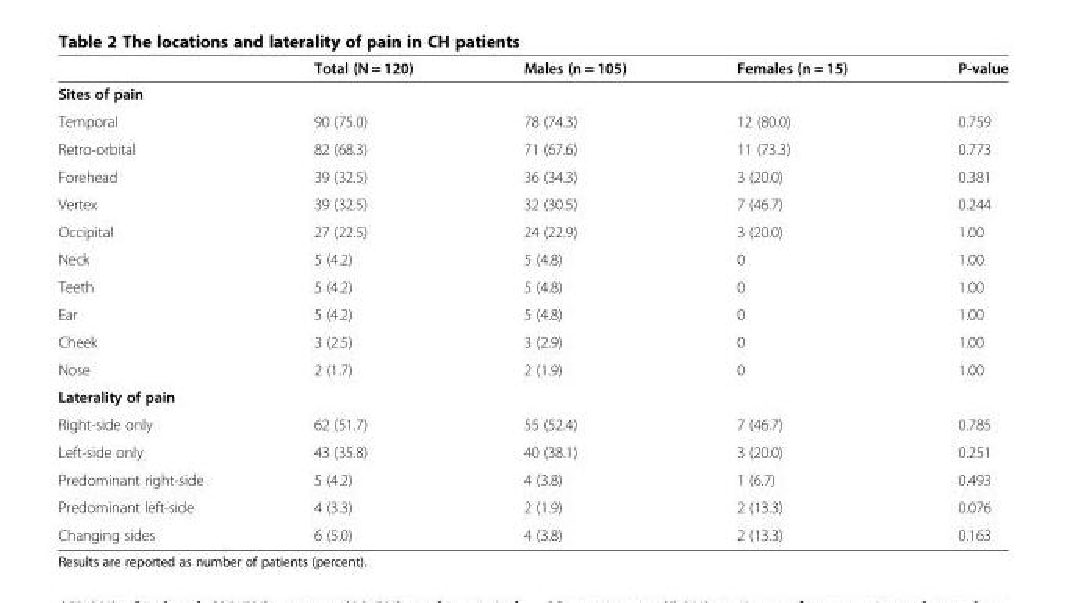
<table><thead><tr><td></td><td>Total (N = 120)</td><td>Males (n = 105)</td><td>Females (n = 15)</td><td>P-value</td></tr></thead><tbody><tr><td colspan="5">Sites of pain</td></tr><tr><td>Temporal</td><td>90 (75.0)</td><td>78 (74.3)</td><td>12 (80.0)</td><td>0.759</td></tr><tr><td>Retro-orbital</td><td>82 (68.3)</td><td>71 (67.6)</td><td>11 (73.3)</td><td>0.773</td></tr><tr><td>Forehead</td><td>39 (32.5)</td><td>36 (34.3)</td><td>3 (20.0)</td><td>0.381</td></tr><tr><td>Vertex</td><td>39 (32.5)</td><td>32 (30.5)</td><td>7 (46.7)</td><td>0.244</td></tr><tr><td>Occipital</td><td>27 (22.5)</td><td>24 (22.9)</td><td>3 (20.0)</td><td>1.00</td></tr><tr><td>Neck</td><td>5 (4.2)</td><td>5 (4.8)</td><td>0</td><td>1.00</td></tr><tr><td>Teeth</td><td>5 (4.2)</td><td>5 (4.8)</td><td>0</td><td>1.00</td></tr><tr><td>Ear</td><td>5 (4.2)</td><td>5 (4.8)</td><td>0</td><td>1.00</td></tr><tr><td>Cheek</td><td>3 (2.5)</td><td>3 (2.9)</td><td>0</td><td>1.00</td></tr><tr><td>Nose</td><td>2 (1.7)</td><td>2 (1.9)</td><td>0</td><td>1.00</td></tr><tr><td colspan="5">Laterality of pain</td></tr><tr><td>Right-side only</td><td>62 (51.7)</td><td>55 (52.4)</td><td>7 (46.7)</td><td>0.785</td></tr><tr><td>Left-side only</td><td>43 (35.8)</td><td>40 (38.1)</td><td>3 (20.0)</td><td>0.251</td></tr><tr><td>Predominant right-side</td><td>5 (4.2)</td><td>4 (3.8)</td><td>1 (6.7)</td><td>0.493</td></tr><tr><td>Predominant left-side</td><td>4 (3.3)</td><td>2 (1.9)</td><td>2 (13.3)</td><td>0.076</td></tr><tr><td>Changing sides</td><td>6 (5.0)</td><td>4 (3.8)</td><td>2 (13.3)</td><td>0.163</td></tr></tbody></table>